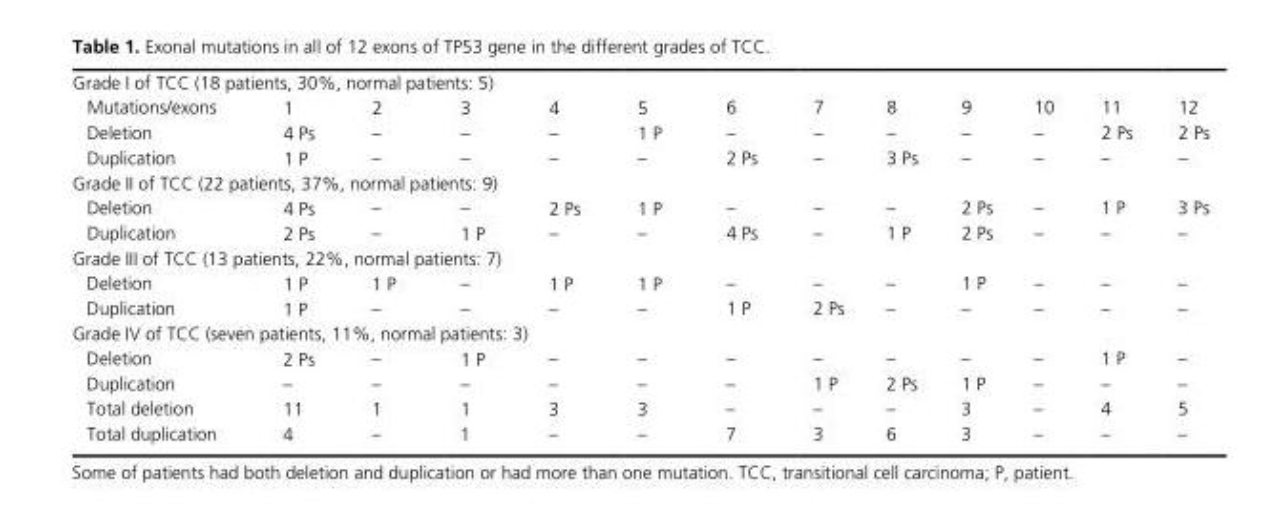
<table><tbody><tr><td colspan="13">Grade I of TCC (18 patients, 30%, normal patients: 5)</td></tr><tr><td>Mutations/exons</td><td>1</td><td>2</td><td>3</td><td>4</td><td>5</td><td>6</td><td>7</td><td>8</td><td>9</td><td>10</td><td>11</td><td>12</td></tr><tr><td>Deletion</td><td>4 Ps</td><td>–</td><td>–</td><td>–</td><td>1 P</td><td>–</td><td>–</td><td>–</td><td>–</td><td>–</td><td>2 Ps</td><td>2 Ps</td></tr><tr><td>Duplication</td><td>1 P</td><td>–</td><td>–</td><td>–</td><td>–</td><td>2 Ps</td><td>–</td><td>3 Ps</td><td>–</td><td>–</td><td>–</td><td>–</td></tr><tr><td colspan="13">Grade II of TCC (22 patients, 37%, normal patients: 9)</td></tr><tr><td>Deletion</td><td>4 Ps</td><td>–</td><td>–</td><td>2 Ps</td><td>1 P</td><td>–</td><td>–</td><td>–</td><td>2 Ps</td><td>–</td><td>1 P</td><td>3 Ps</td></tr><tr><td>Duplication</td><td>2 Ps</td><td>–</td><td>1 P</td><td>–</td><td>–</td><td>4 Ps</td><td>–</td><td>1 P</td><td>2 Ps</td><td>–</td><td>–</td><td>–</td></tr><tr><td colspan="13">Grade III of TCC (13 patients, 22%, normal patients: 7)</td></tr><tr><td>Deletion</td><td>1 P</td><td>1 P</td><td>–</td><td>1 P</td><td>1 P</td><td>–</td><td>–</td><td>–</td><td>1 P</td><td>–</td><td>–</td><td>–</td></tr><tr><td>Duplication</td><td>1 P</td><td>–</td><td>–</td><td>–</td><td>–</td><td>1 P</td><td>2 Ps</td><td>–</td><td>–</td><td>–</td><td>–</td><td>–</td></tr><tr><td colspan="13">Grade IV of TCC (seven patients, 11%, normal patients: 3)</td></tr><tr><td>Deletion</td><td>2 Ps</td><td>–</td><td>1 P</td><td>–</td><td>–</td><td>–</td><td>–</td><td>–</td><td>–</td><td>–</td><td>1 P</td><td>–</td></tr><tr><td>Duplication</td><td>–</td><td>–</td><td>–</td><td>–</td><td>–</td><td>–</td><td>1 P</td><td>2 Ps</td><td>1 P</td><td>–</td><td>–</td><td>–</td></tr><tr><td>Total deletion</td><td>11</td><td>1</td><td>1</td><td>3</td><td>3</td><td>–</td><td>–</td><td>–</td><td>3</td><td>–</td><td>4</td><td>5</td></tr><tr><td>Total duplication</td><td>4</td><td>–</td><td>1</td><td>–</td><td>–</td><td>7</td><td>3</td><td>6</td><td>3</td><td>–</td><td>–</td><td>–</td></tr></tbody></table>